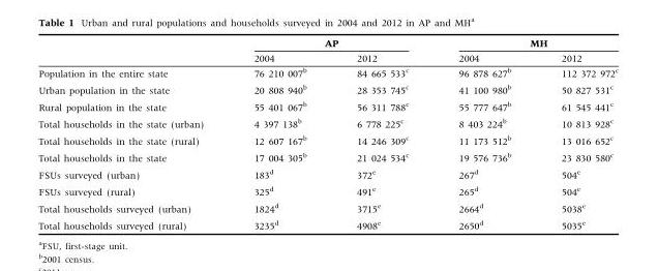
<table><thead><tr><td rowspan="2"></td><td colspan="2">AP</td><td colspan="2">MH</td></tr><tr><td>2004</td><td>2012</td><td>2004</td><td>2012</td></tr></thead><tbody><tr><td>Population in the entire state</td><td>76 210 007<sup>b</sup></td><td>84 665 533<sup>c</sup></td><td>96 878 627<sup>b</sup></td><td>112 372 972<sup>c</sup></td></tr><tr><td>Urban population in the state</td><td>20 808 940<sup>b</sup></td><td>28 353 745<sup>c</sup></td><td>41 100 980<sup>b</sup></td><td>50 827 531<sup>c</sup></td></tr><tr><td>Rural population in the state</td><td>55 401 067<sup>b</sup></td><td>56 311 788<sup>c</sup></td><td>55 777 647<sup>b</sup></td><td>61 545 441<sup>c</sup></td></tr><tr><td>Total households in the state (urban)</td><td>4 397 138<sup>b</sup></td><td>6 778 225<sup>c</sup></td><td>8 403 224<sup>b</sup></td><td>10 813 928<sup>c</sup></td></tr><tr><td>Total households in the state (rural)</td><td>12 607 167<sup>b</sup></td><td>14 246 309<sup>c</sup></td><td>11 173 512<sup>b</sup></td><td>13 016 652<sup>c</sup></td></tr><tr><td>Total households in the state</td><td>17 004 305<sup>b</sup></td><td>21 024 534<sup>c</sup></td><td>19 576 736<sup>b</sup></td><td>23 830 580<sup>c</sup></td></tr><tr><td>FSUs surveyed (urban)</td><td>183<sup>d</sup></td><td>372<sup>e</sup></td><td>267<sup>d</sup></td><td>504<sup>e</sup></td></tr><tr><td>FSUs surveyed (rural)</td><td>325<sup>d</sup></td><td>491<sup>e</sup></td><td>265<sup>d</sup></td><td>504<sup>e</sup></td></tr><tr><td>Total households surveyed (urban)</td><td>1824<sup>d</sup></td><td>3715<sup>e</sup></td><td>2664<sup>d</sup></td><td>5038<sup>e</sup></td></tr><tr><td>Total households surveyed (rural)</td><td>3235<sup>d</sup></td><td>4908<sup>e</sup></td><td>2650<sup>d</sup></td><td>5035<sup>e</sup></td></tr></tbody></table>